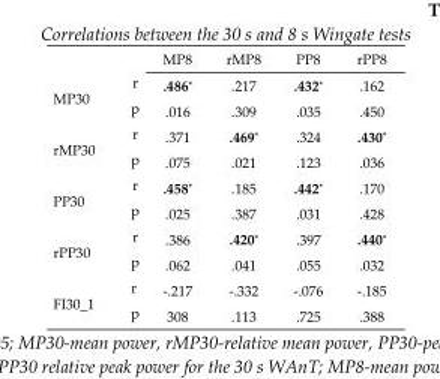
<table><thead><tr><td></td><td></td><td>MP8</td><td>rMP8</td><td>PP8</td><td>rPP8</td></tr></thead><tbody><tr><td rowspan="2">MP30</td><td>r</td><td>.486*</td><td>.217</td><td>.432*</td><td>.162</td></tr><tr><td>p</td><td>.016</td><td>.309</td><td>.035</td><td>.450</td></tr><tr><td rowspan="2">rMP30</td><td>r</td><td>.371</td><td>.469*</td><td>.324</td><td>.430*</td></tr><tr><td>p</td><td>.075</td><td>.021</td><td>.123</td><td>.036</td></tr><tr><td rowspan="2">PP30</td><td>r</td><td>.458*</td><td>.185</td><td>.442*</td><td>.170</td></tr><tr><td>p</td><td>.025</td><td>.387</td><td>.031</td><td>.428</td></tr><tr><td rowspan="2">rPP30</td><td>r</td><td>.386</td><td>.420*</td><td>.397</td><td>.440*</td></tr><tr><td>p</td><td>.062</td><td>.041</td><td>.055</td><td>.032</td></tr><tr><td rowspan="2">FI30_1</td><td>r</td><td>-.217</td><td>-.332</td><td>-.076</td><td>-.185</td></tr><tr><td>p</td><td>308</td><td>.113</td><td>.725</td><td>.388</td></tr></tbody></table>